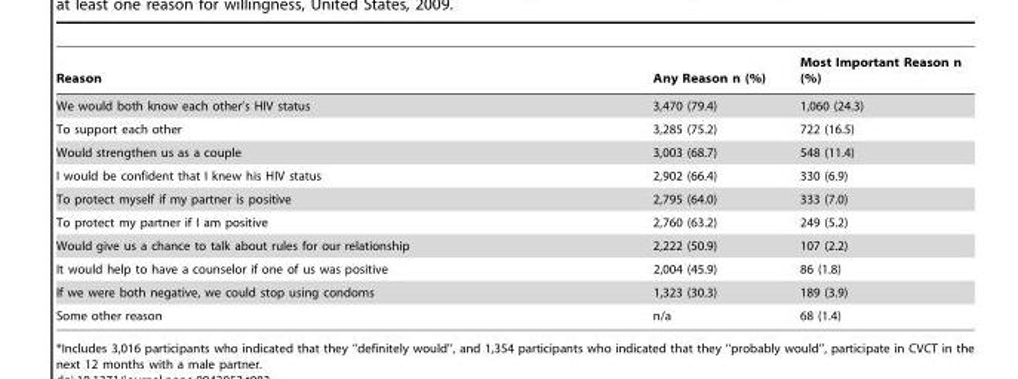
<table><thead><tr><td>Reason</td><td>Any Reason n (%)</td><td>Most Important Reason n (%)</td></tr></thead><tbody><tr><td>We would both know each other’s HIV status</td><td>3,470 (79.4)</td><td>1,060 (24.3)</td></tr><tr><td>To support each other</td><td>3,285 (75.2)</td><td>722 (16.5)</td></tr><tr><td>Would strengthen us as a couple</td><td>3,003 (68.7)</td><td>548 (11.4)</td></tr><tr><td>I would be confident that I knew his HIV status</td><td>2,902 (66.4)</td><td>330 (6.9)</td></tr><tr><td>To protect myself if my partner is positive</td><td>2,795 (64.0)</td><td>333 (7.0)</td></tr><tr><td>To protect my partner if I am positive</td><td>2,760 (63.2)</td><td>249 (5.2)</td></tr><tr><td>Would give us a chance to talk about rules for our relationship</td><td>2,222 (50.9)</td><td>107 (2.2)</td></tr><tr><td>It would help to have a counselor if one of us was positive</td><td>2,004 (45.9)</td><td>86 (1.8)</td></tr><tr><td>If we were both negative, we could stop using condoms</td><td>1,323 (30.3)</td><td>189 (3.9)</td></tr><tr><td>Some other reason</td><td>n/a</td><td>68 (1.4)</td></tr></tbody></table>